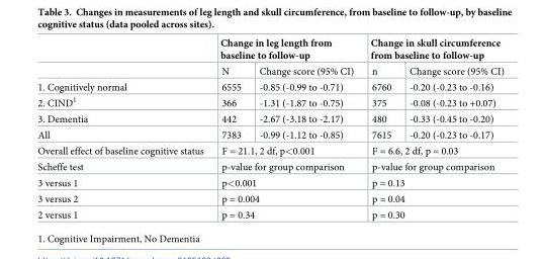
<table><thead><tr><td rowspan="2"></td><td colspan="2">Change in leg length from baseline to follow-up</td><td colspan="2">Change in skull circumference from baseline to follow-up</td></tr><tr><td>N</td><td>Change score (95% CI)</td><td>n</td><td>Change score (95% CI)</td></tr></thead><tbody><tr><td>1. Cognitively normal</td><td>6555</td><td>-0.85 (-0.99 to -0.71)</td><td>6760</td><td>-0.20 (-0.23 to -0.16)</td></tr><tr><td>2. CIND<sup>1</sup></td><td>366</td><td>-1.31 (-1.87 to -0.75)</td><td>375</td><td>-0.08 (-0.23 to +0.07)</td></tr><tr><td>3. Dementia</td><td>442</td><td>-2.67 (-3.18 to -2.17)</td><td>480</td><td>-0.33 (-0.45 to -0.20)</td></tr><tr><td>All</td><td>7383</td><td>-0.99 (-1.12 to -0.85)</td><td>7615</td><td>-0.20 (-0.23 to -0.17)</td></tr><tr><td>Overall effect of baseline cognitive status</td><td colspan="2">F = 21.1, 2 df, p&lt;0.001</td><td colspan="2">F = 6.6, 2 df, p = 0.03</td></tr><tr><td>Scheffe test</td><td colspan="2">p-value for group comparison</td><td colspan="2">p-value for group comparison</td></tr><tr><td>3 versus 1</td><td colspan="2">p&lt;0.001</td><td colspan="2">p = 0.13</td></tr><tr><td>3 versus 2</td><td colspan="2">p = 0.004</td><td colspan="2">p = 0.04</td></tr><tr><td>2 versus 1</td><td colspan="2">p = 0.34</td><td colspan="2">p = 0.30</td></tr></tbody></table>